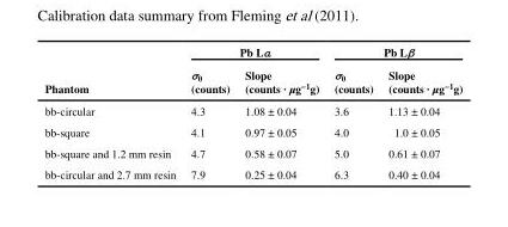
<table><thead><tr><td rowspan="2">Phantom</td><td colspan="2">Pb Lα</td><td colspan="2">Pb Lβ</td></tr><tr><td>σ<sub>0</sub> (counts)</td><td>Slope (counts · µg<sup>−1</sup>g)</td><td>σ<sub>0</sub> (counts)</td><td>Slope (counts · µg<sup>−1</sup>g)</td></tr></thead><tbody><tr><td>bb-circular</td><td>4.3</td><td>1.08 ± 0.04</td><td>3.6</td><td>1.13 ± 0.04</td></tr><tr><td>bb-square</td><td>4.1</td><td>0.97 ± 0.05</td><td>4.0</td><td>1.0 ± 0.05</td></tr><tr><td>bb-square and 1.2 mm resin</td><td>4.7</td><td>0.58 ± 0.07</td><td>5.0</td><td>0.61 ± 0.07</td></tr><tr><td>bb-circular and 2.7 mm resin</td><td>7.9</td><td>0.25 ± 0.04</td><td>6.3</td><td>0.40 ± 0.04</td></tr></tbody></table>